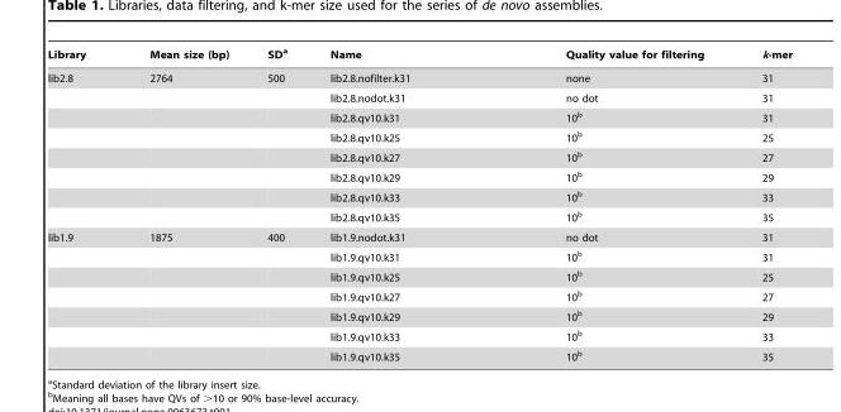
<table><thead><tr><td>Library</td><td>Mean size (bp)</td><td>SD<sup>a</sup></td><td>Name</td><td>Quality value for filtering</td><td>k-mer</td></tr></thead><tbody><tr><td rowspan="8">lib2.8</td><td>2764</td><td>500</td><td>lib2.8.nofilter.k31</td><td>none</td><td>31</td></tr><tr><td></td><td></td><td>lib2.8.nodot.k31</td><td>no dot</td><td>31</td></tr><tr><td></td><td></td><td>lib2.8.qv10.k31</td><td>10<sup>b</sup></td><td>31</td></tr><tr><td></td><td></td><td>lib2.8.qv10.k25</td><td>10<sup>b</sup></td><td>25</td></tr><tr><td></td><td></td><td>lib2.8.qv10.k27</td><td>10<sup>b</sup></td><td>27</td></tr><tr><td></td><td></td><td>lib2.8.qv10.k29</td><td>10<sup>b</sup></td><td>29</td></tr><tr><td></td><td></td><td>lib2.8.qv10.k33</td><td>10<sup>b</sup></td><td>33</td></tr><tr><td></td><td></td><td>lib2.8.qv10.k35</td><td>10<sup>b</sup></td><td>35</td></tr><tr><td rowspan="7">lib1.9</td><td>1875</td><td>400</td><td>lib1.9.nodot.k31</td><td>no dot</td><td>31</td></tr><tr><td></td><td></td><td>lib1.9.qv10.k31</td><td>10<sup>b</sup></td><td>31</td></tr><tr><td></td><td></td><td>lib1.9.qv10.k25</td><td>10<sup>b</sup></td><td>25</td></tr><tr><td></td><td></td><td>lib1.9.qv10.k27</td><td>10<sup>b</sup></td><td>27</td></tr><tr><td></td><td></td><td>lib1.9.qv10.k29</td><td>10<sup>b</sup></td><td>29</td></tr><tr><td></td><td></td><td>lib1.9.qv10.k33</td><td>10<sup>b</sup></td><td>33</td></tr><tr><td></td><td></td><td>lib1.9.qv10.k35</td><td>10<sup>b</sup></td><td>35</td></tr></tbody></table>